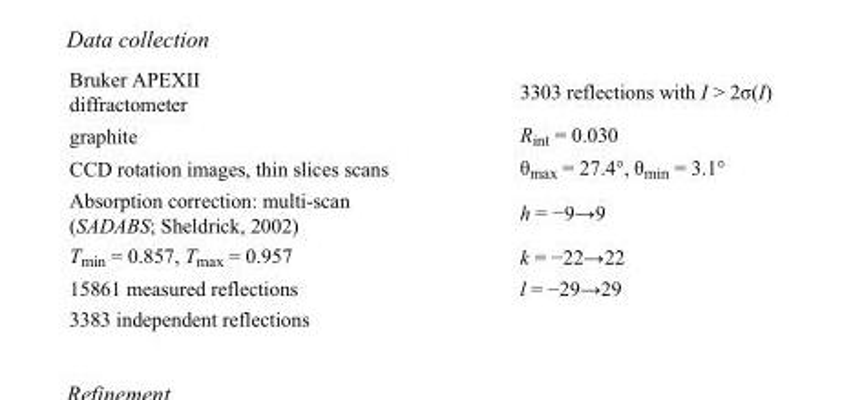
<table><tbody><tr><td>Bruker APEXII diffractometer</td><td>3303 reflections with I &gt; 2σ(I)</td></tr><tr><td>graphite</td><td>R<sub>int</sub> = 0.030</td></tr><tr><td>CCD rotation images, thin slices scans</td><td>θ<sub>max</sub> = 27.4°, θ<sub>min</sub> = 3.1°</td></tr><tr><td>Absorption correction: multi-scan (SADABS; Sheldrick, 2002)</td><td>h = −9→9</td></tr><tr><td>T<sub>min</sub> = 0.857, T<sub>max</sub> = 0.957</td><td>k = −22→22</td></tr><tr><td>15861 measured reflections</td><td>l = −29→29</td></tr><tr><td>3383 independent reflections</td><td></td></tr></tbody></table>